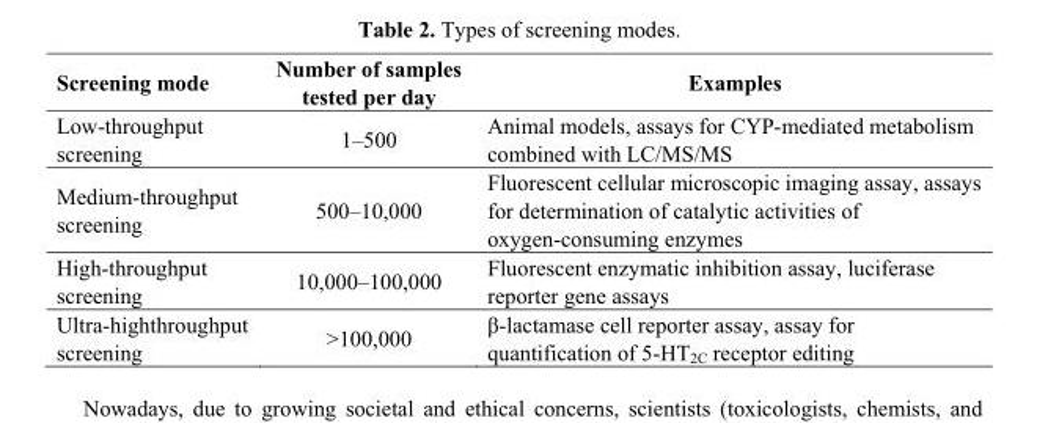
<table><thead><tr><td>Screening mode</td><td>Number of samples tested per day</td><td>Examples</td></tr></thead><tbody><tr><td>Low-throughput screening</td><td>1–500</td><td>Animal models, assays for CYP-mediated metabolism combined with LC/MS/MS</td></tr><tr><td>Medium-throughput screening</td><td>500–10,000</td><td>Fluorescent cellular microscopic imaging assay, assays for determination of catalytic activities of oxygen-consuming enzymes</td></tr><tr><td>High-throughput screening</td><td>10,000–100,000</td><td>Fluorescent enzymatic inhibition assay, luciferase reporter gene assays</td></tr><tr><td>Ultra-highthroughput screening</td><td>&gt;100,000</td><td>β-lactamase cell reporter assay, assay for quantification of 5-HT<sub>2C</sub> receptor editing</td></tr></tbody></table>